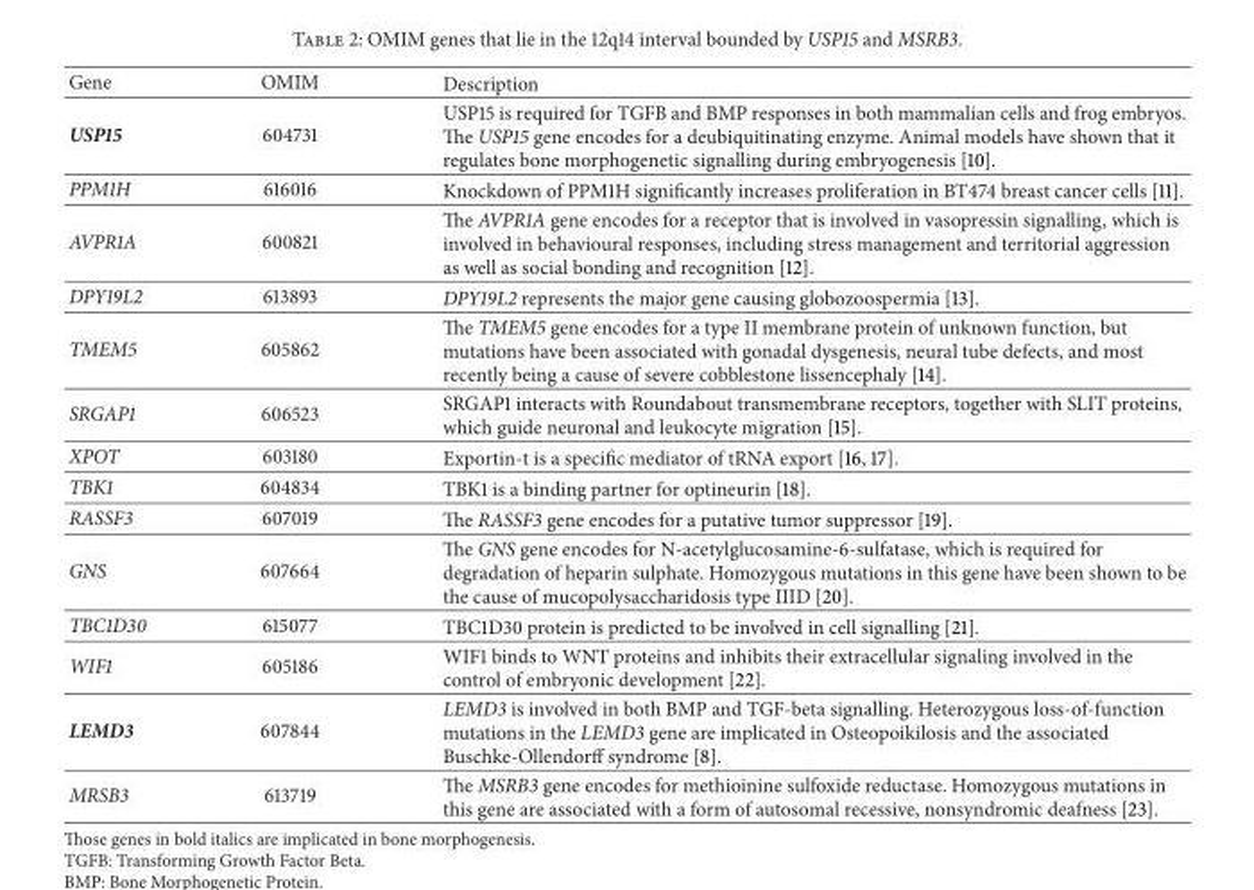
<table><thead><tr><td>Gene</td><td>OMIM</td><td>Description</td></tr></thead><tbody><tr><td>USP15</td><td>604731</td><td>USP15 is required for TGFB and BMP responses in both mammalian cells and frog embryos. The USP15 gene encodes for a deubiquitinating enzyme. Animal models have shown that it regulates bone morphogenetic signalling during embryogenesis [10].</td></tr><tr><td>PPM1H</td><td>616016</td><td>Knockdown of PPM1H significantly increases proliferation in BT474 breast cancer cells [11].</td></tr><tr><td>AVPR1A</td><td>600821</td><td>The AVPR1A gene encodes for a receptor that is involved in vasopressin signalling, which is involved in behavioural responses, including stress management and territorial aggression as well as social bonding and recognition [12].</td></tr><tr><td>DPY19L2</td><td>613893</td><td>DPY19L2 represents the major gene causing globozoospermia [13].</td></tr><tr><td>TMEM5</td><td>605862</td><td>The TMEM5 gene encodes for a type II membrane protein of unknown function, but mutations have been associated with gonadal dysgenesis, neural tube defects, and most recently being a cause of severe cobblestone lissencephaly [14].</td></tr><tr><td>SRGAP1</td><td>606523</td><td>SRGAP1 interacts with Roundabout transmembrane receptors, together with SLIT proteins, which guide neuronal and leukocyte migration [15].</td></tr><tr><td>XPOT</td><td>603180</td><td>Exportin-t is a specific mediator of tRNA export [16, 17].</td></tr><tr><td>TBK1</td><td>604834</td><td>TBK1 is a binding partner for optineurin [18].</td></tr><tr><td>RASSF3</td><td>607019</td><td>The RASSF3 gene encodes for a putative tumor suppressor [19].</td></tr><tr><td>GNS</td><td>607664</td><td>The GNS gene encodes for N-acetylglucosamine-6-sulfatase, which is required for degradation of heparin sulphate. Homozygous mutations in this gene have been shown to be the cause of mucopolysaccharidosis type IIID [20].</td></tr><tr><td>TBC1D30</td><td>615077</td><td>TBC1D30 protein is predicted to be involved in cell signalling [21].</td></tr><tr><td>WIF1</td><td>605186</td><td>WIF1 binds to WNT proteins and inhibits their extracellular signaling involved in the control of embryonic development [22].</td></tr><tr><td>LEMD3</td><td>607844</td><td>LEMD3 is involved in both BMP and TGF-beta signalling. Heterozygous loss-of-function mutations in the LEMD3 gene are implicated in Osteopoikilosis and the associated Buschke-Ollendorff syndrome [8].</td></tr><tr><td>MRSB3</td><td>613719</td><td>The MSRB3 gene encodes for methioinine sulfoxide reductase. Homozygous mutations in this gene are associated with a form of autosomal recessive, nonsyndromic deafness [23].</td></tr></tbody></table>